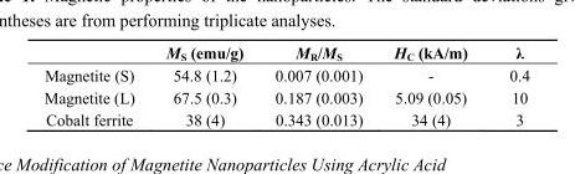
<table><thead><tr><td></td><td>M<sub>S</sub> (emu/g)</td><td>M<sub>R</sub>/M<sub>S</sub></td><td>H<sub>C</sub> (kA/m)</td><td>λ</td></tr></thead><tbody><tr><td>Magnetite (S)</td><td>54.8 (1.2)</td><td>0.007 (0.001)</td><td>-</td><td>0.4</td></tr><tr><td>Magnetite (L)</td><td>67.5 (0.3)</td><td>0.187 (0.003)</td><td>5.09 (0.05)</td><td>10</td></tr><tr><td>Cobalt ferrite</td><td>38 (4)</td><td>0.343 (0.013)</td><td>34 (4)</td><td>3</td></tr></tbody></table>